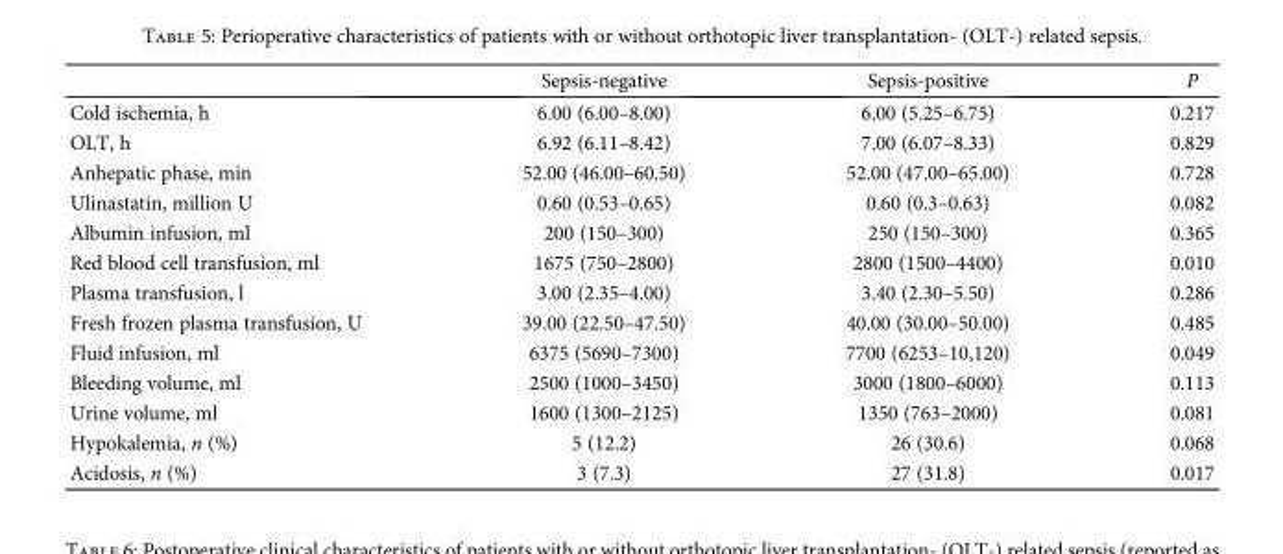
<table><thead><tr><td></td><td>Sepsis-negative</td><td>Sepsis-positive</td><td>P</td></tr></thead><tbody><tr><td>Cold ischemia, h</td><td>6.00 (6.00–8.00)</td><td>6.00 (5.25–6.75)</td><td>0.217</td></tr><tr><td>OLT, h</td><td>6.92 (6.11–8.42)</td><td>7.00 (6.07–8.33)</td><td>0.829</td></tr><tr><td>Anhepatic phase, min</td><td>52.00 (46.00–60.50)</td><td>52.00 (47.00–65.00)</td><td>0.728</td></tr><tr><td>Ulinastatin, million U</td><td>0.60 (0.53–0.65)</td><td>0.60 (0.3–0.63)</td><td>0.082</td></tr><tr><td>Albumin infusion, ml</td><td>200 (150–300)</td><td>250 (150–300)</td><td>0.365</td></tr><tr><td>Red blood cell transfusion, ml</td><td>1675 (750–2800)</td><td>2800 (1500–4400)</td><td>0.010</td></tr><tr><td>Plasma transfusion, l</td><td>3.00 (2.35–4.00)</td><td>3.40 (2.30–5.50)</td><td>0.286</td></tr><tr><td>Fresh frozen plasma transfusion, U</td><td>39.00 (22.50–47.50)</td><td>40.00 (30.00–50.00)</td><td>0.485</td></tr><tr><td>Fluid infusion, ml</td><td>6375 (5690–7300)</td><td>7700 (6253–10,120)</td><td>0.049</td></tr><tr><td>Bleeding volume, ml</td><td>2500 (1000–3450)</td><td>3000 (1800–6000)</td><td>0.113</td></tr><tr><td>Urine volume, ml</td><td>1600 (1300–2125)</td><td>1350 (763–2000)</td><td>0.081</td></tr><tr><td>Hypokalemia, n (%)</td><td>5 (12.2)</td><td>26 (30.6)</td><td>0.068</td></tr><tr><td>Acidosis, n (%)</td><td>3 (7.3)</td><td>27 (31.8)</td><td>0.017</td></tr></tbody></table>